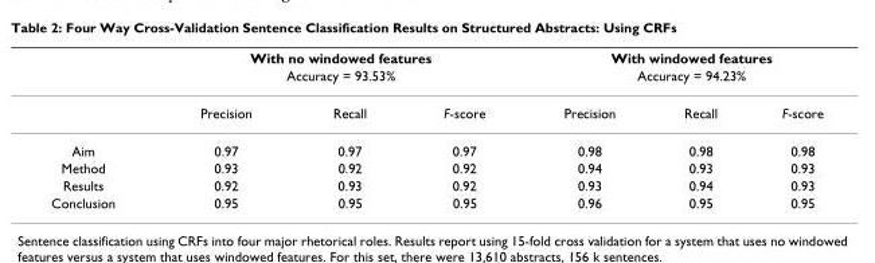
<table><thead><tr><td rowspan="3"></td><td rowspan="2" colspan="3">With no windowed features Accuracy = 93.53%</td><td rowspan="2" colspan="3">With windowed features Accuracy = 94.23%</td></tr><tr></tr><tr><td>Precision</td><td>Recall</td><td>F-score</td><td>Precision</td><td>Recall</td><td>F-score</td></tr></thead><tbody><tr><td>Aim</td><td>0.97</td><td>0.97</td><td>0.97</td><td>0.98</td><td>0.98</td><td>0.98</td></tr><tr><td>Method</td><td>0.93</td><td>0.92</td><td>0.92</td><td>0.94</td><td>0.93</td><td>0.93</td></tr><tr><td>Results</td><td>0.92</td><td>0.93</td><td>0.92</td><td>0.93</td><td>0.94</td><td>0.93</td></tr><tr><td>Conclusion</td><td>0.95</td><td>0.95</td><td>0.95</td><td>0.96</td><td>0.95</td><td>0.95</td></tr></tbody></table>